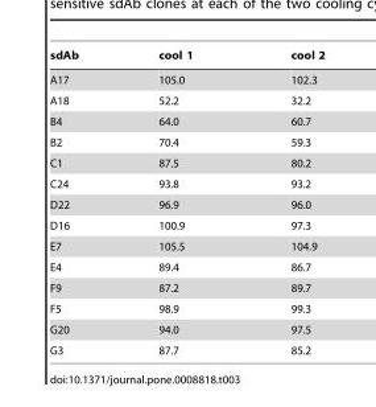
<table><thead><tr><td>sdAb</td><td>cool 1</td><td>cool 2</td></tr></thead><tbody><tr><td>A17</td><td>105.0</td><td>102.3</td></tr><tr><td>A18</td><td>52.2</td><td>32.2</td></tr><tr><td>B4</td><td>64.0</td><td>60.7</td></tr><tr><td>B2</td><td>70.4</td><td>59.3</td></tr><tr><td>C1</td><td>87.5</td><td>80.2</td></tr><tr><td>C24</td><td>93.8</td><td>93.2</td></tr><tr><td>D22</td><td>96.9</td><td>96.0</td></tr><tr><td>D16</td><td>100.9</td><td>97.3</td></tr><tr><td>E7</td><td>105.5</td><td>104.9</td></tr><tr><td>E4</td><td>89.4</td><td>86.7</td></tr><tr><td>F9</td><td>87.2</td><td>89.7</td></tr><tr><td>F5</td><td>98.9</td><td>99.3</td></tr><tr><td>G20</td><td>94.0</td><td>97.5</td></tr><tr><td>G3</td><td>87.7</td><td>85.2</td></tr></tbody></table>